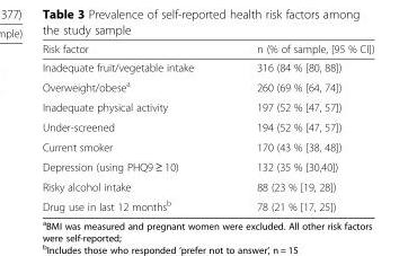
<table><thead><tr><td>Risk factor</td><td>n (% of sample, [95 % CI])</td></tr></thead><tbody><tr><td>Inadequate fruit/vegetable intake</td><td>316 (84 % [80, 88])</td></tr><tr><td>Overweight/obese<sup>a</sup></td><td>260 (69 % [64, 74])</td></tr><tr><td>Inadequate physical activity</td><td>197 (52 % [47, 57])</td></tr><tr><td>Under-screened</td><td>194 (52 % [47, 57])</td></tr><tr><td>Current smoker</td><td>170 (43 % [38, 48])</td></tr><tr><td>Depression (using PHQ9 ≥ 10)</td><td>132 (35 % [30,40])</td></tr><tr><td>Risky alcohol intake</td><td>88 (23 % [19, 28])</td></tr><tr><td>Drug use in last 12 months<sup>b</sup></td><td>78 (21 % [17, 25])</td></tr></tbody></table>